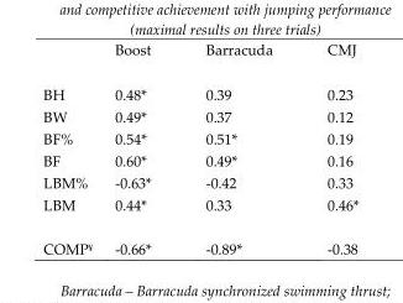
<table><thead><tr><td></td><td>Boost</td><td>Barracuda</td><td>CMJ</td></tr></thead><tbody><tr><td>BH</td><td>0.48*</td><td>0.39</td><td>0.23</td></tr><tr><td>BW</td><td>0.49*</td><td>0.37</td><td>0.12</td></tr><tr><td>BF%</td><td>0.54*</td><td>0.51*</td><td>0.19</td></tr><tr><td>BF</td><td>0.60*</td><td>0.49*</td><td>0.16</td></tr><tr><td>LBM%</td><td>-0.63*</td><td>-0.42</td><td>0.33</td></tr><tr><td>LBM</td><td>0.44*</td><td>0.33</td><td>0.46*</td></tr><tr><td>COMP<sup>¥</sup></td><td>-0.66*</td><td>-0.89*</td><td>-0.38</td></tr></tbody></table>